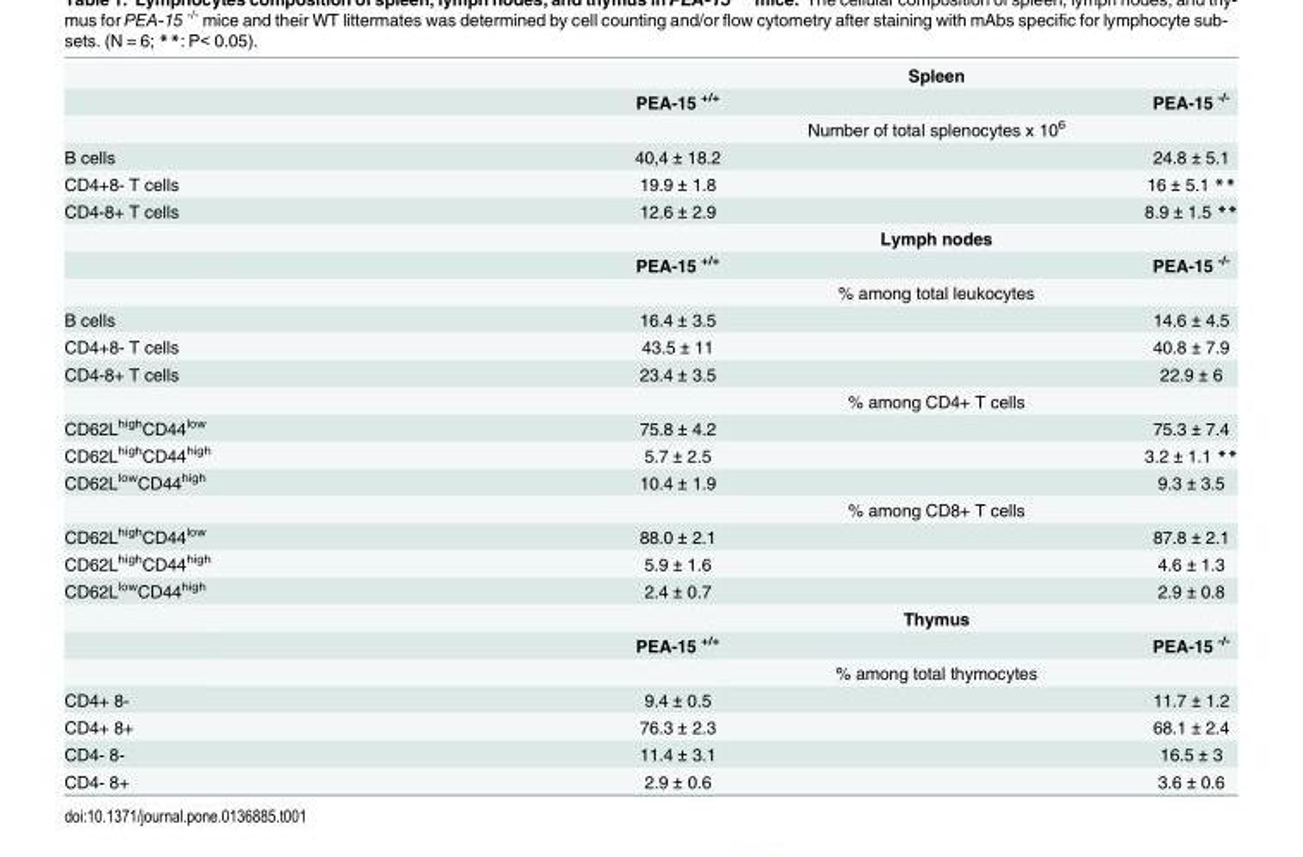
<table><thead><tr><td rowspan="2"></td><td colspan="2">Spleen</td></tr><tr><td>PEA-15 <sup>+/+</sup></td><td>PEA-15 <sup>-/-</sup></td></tr></thead><tbody><tr><td></td><td colspan="2">Number of total splenocytes x 10<sup>6</sup></td></tr><tr><td>B cells</td><td>40,4 ± 18.2</td><td>24.8 ± 5.1</td></tr><tr><td>CD4+8- T cells</td><td>19.9 ± 1.8</td><td>16 ± 5.1 **</td></tr><tr><td rowspan="4">CD4-8+ T cells</td><td>12.6 ± 2.9</td><td>8.9 ± 1.5 **</td></tr><tr><td colspan="2">Lymph nodes</td></tr><tr><td>PEA-15 <sup>+/+</sup></td><td>PEA-15 <sup>-/-</sup></td></tr><tr><td colspan="2">% among total leukocytes</td></tr><tr><td>B cells</td><td>16.4 ± 3.5</td><td>14.6 ± 4.5</td></tr><tr><td>CD4+8- T cells</td><td>43.5 ± 11</td><td>40.8 ± 7.9</td></tr><tr><td rowspan="2">CD4-8+ T cells</td><td>23.4 ± 3.5</td><td>22.9 ± 6</td></tr><tr><td colspan="2">% among CD4+ T cells</td></tr><tr><td>CD62L<sup>high</sup>CD44<sup>low</sup></td><td>75.8 ± 4.2</td><td>75.3 ± 7.4</td></tr><tr><td>CD62L<sup>high</sup>CD44<sup>high</sup></td><td>5.7 ± 2.5</td><td>3.2 ± 1.1 **</td></tr><tr><td rowspan="2">CD62L<sup>low</sup>CD44<sup>high</sup></td><td>10.4 ± 1.9</td><td>9.3 ± 3.5</td></tr><tr><td colspan="2">% among CD8+ T cells</td></tr><tr><td>CD62L<sup>high</sup>CD44<sup>low</sup></td><td>88.0 ± 2.1</td><td>87.8 ± 2.1</td></tr><tr><td>CD62L<sup>high</sup>CD44<sup>high</sup></td><td>5.9 ± 1.6</td><td>4.6 ± 1.3</td></tr><tr><td rowspan="4">CD62L<sup>low</sup>CD44<sup>high</sup></td><td>2.4 ± 0.7</td><td>2.9 ± 0.8</td></tr><tr><td colspan="2">Thymus</td></tr><tr><td>PEA-15 <sup>+/+</sup></td><td>PEA-15 <sup>-/-</sup></td></tr><tr><td colspan="2">% among total thymocytes</td></tr><tr><td>CD4+ 8-</td><td>9.4 ± 0.5</td><td>11.7 ± 1.2</td></tr><tr><td>CD4+ 8+</td><td>76.3 ± 2.3</td><td>68.1 ± 2.4</td></tr><tr><td>CD4- 8-</td><td>11.4 ± 3.1</td><td>16.5 ± 3</td></tr><tr><td>CD4- 8+</td><td>2.9 ± 0.6</td><td>3.6 ± 0.6</td></tr></tbody></table>